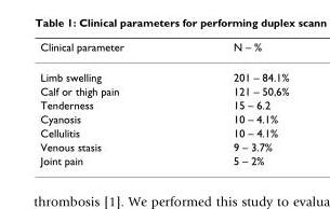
<table><thead><tr><td>Clinical parameter</td><td>N – %</td></tr></thead><tbody><tr><td>Limb swelling</td><td>201 – 84.1%</td></tr><tr><td>Calf or thigh pain</td><td>121 – 50,6%</td></tr><tr><td>Tenderness</td><td>15 – 6.2</td></tr><tr><td>Cyanosis</td><td>10 – 4.1%</td></tr><tr><td>Cellulitis</td><td>10 – 4.1%</td></tr><tr><td>Venous stasis</td><td>9 – 3.7%</td></tr><tr><td>Joint pain</td><td>5 – 2%</td></tr></tbody></table>